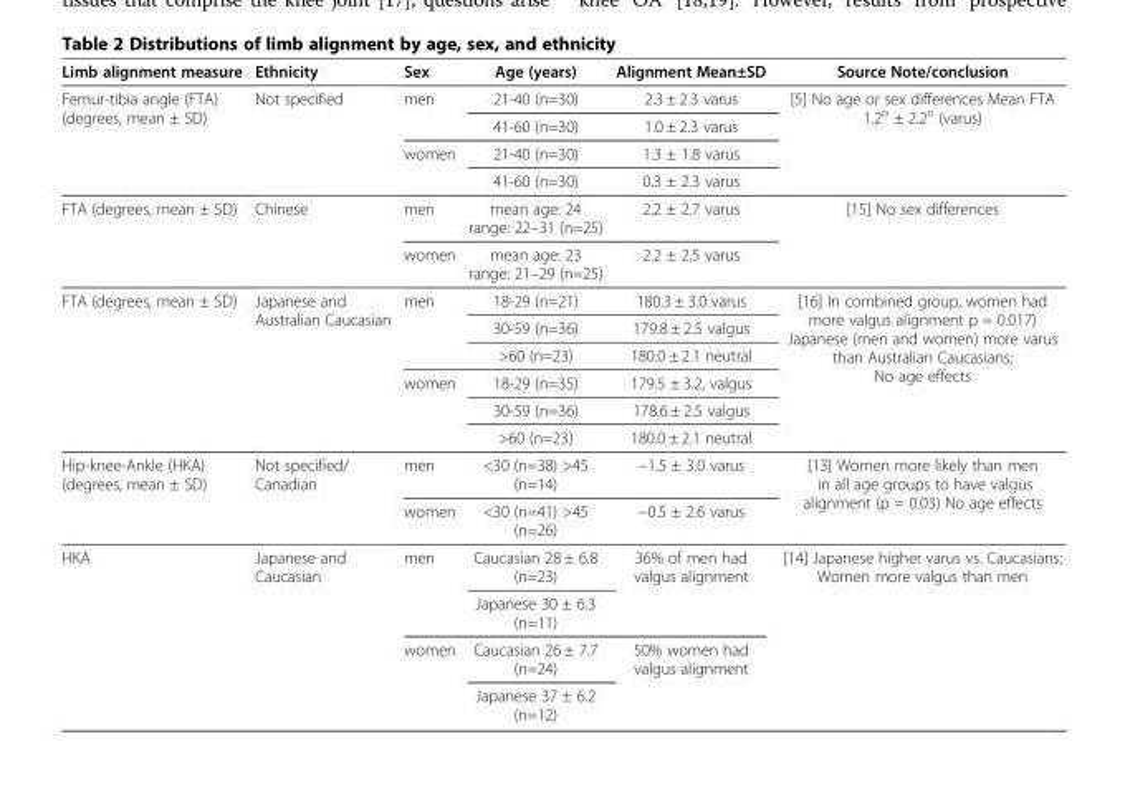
<table><thead><tr><td>Limb alignment measure</td><td>Ethnicity</td><td>Sex</td><td>Age (years)</td><td>Alignment Mean±SD</td><td>Source Note/conclusion</td></tr></thead><tbody><tr><td rowspan="4">Femur-tibia angle (FTA) (degrees, mean ± SD)</td><td rowspan="4">Not specified</td><td rowspan="2">men</td><td>21-40 (n=30)</td><td>2.3 ± 2.3 varus</td><td rowspan="4">[5] No age or sex differences Mean FTA 1.2<sup>o</sup> ± 2.2<sup>o</sup> (varus)</td></tr><tr><td>41-60 (n=30)</td><td>1.0 ± 2.3 varus</td></tr><tr><td rowspan="2">women</td><td>21-40 (n=30)</td><td>1.3 ± 1.8 varus</td></tr><tr><td>41-60 (n=30)</td><td>0.3 ± 2.3 varus</td></tr><tr><td rowspan="2">FTA (degrees, mean ± SD)</td><td rowspan="2">Chinese</td><td>men</td><td>mean age: 24 range: 22–31 (n=25)</td><td>2.2 ± 2.7 varus</td><td rowspan="2">[15] No sex differences</td></tr><tr><td>women</td><td>mean age: 23 range: 21–29 (n=25)</td><td>2.2 ± 2.5 varus</td></tr><tr><td rowspan="6">FTA (degrees, mean ± SD)</td><td rowspan="6">Japanese and Australian Caucasian</td><td rowspan="3">men</td><td>18-29 (n=21)</td><td>180.3 ± 3.0 varus</td><td rowspan="6">[16] In combined group, women had more valgus alignment p = 0.017) Japanese (men and women) more varus than Australian Caucasians; No age effects</td></tr><tr><td>30-59 (n=36)</td><td>179.8 ± 2.5 valgus</td></tr><tr><td>&gt;60 (n=23)</td><td>180.0 ± 2.1 neutral</td></tr><tr><td rowspan="3">women</td><td>18-29 (n=35)</td><td>179.5 ± 3.2, valgus</td></tr><tr><td>30-59 (n=36)</td><td>178.6 ± 2.5 valgus</td></tr><tr><td>&gt;60 (n=23)</td><td>180.0 ± 2.1 neutral</td></tr><tr><td rowspan="2">Hip-knee-Ankle (HKA) (degrees, mean ± SD)</td><td rowspan="2">Not specified/ Canadian</td><td>men</td><td>&lt;30 (n=38) &gt;45 (n=14)</td><td>−1.5 ± 3.0 varus</td><td rowspan="2">[13] Women more likely than men in all age groups to have valgus alignment (p = 0.03) No age effects</td></tr><tr><td>women</td><td>&lt;30 (n=41) &gt;45 (n=26)</td><td>−0.5 ± 2.6 varus</td></tr><tr><td rowspan="4">HKA</td><td rowspan="4">Japanese and Caucasian</td><td rowspan="2">men</td><td>Caucasian 28 ± 6.8 (n=23)</td><td rowspan="2">36% of men had valgus alignment</td><td rowspan="4">[14] Japanese higher varus vs. Caucasians; Women more valgus than men</td></tr><tr><td>Japanese 30 ± 6.3 (n=11)</td></tr><tr><td rowspan="2">women</td><td>Caucasian 26 ± 7.7 (n=24)</td><td rowspan="2">50% women had valgus alignment</td></tr><tr><td>Japanese 37 ± 6.2 (n=12)</td></tr></tbody></table>